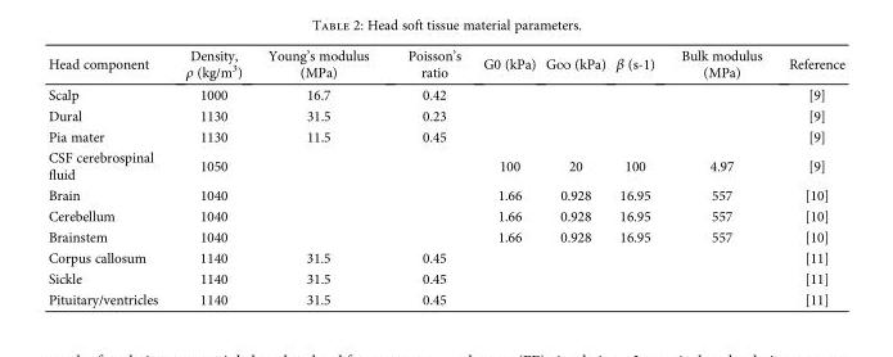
<table><thead><tr><td>Head component</td><td>Density, ρ (kg/m<sup>3</sup>)</td><td>Young’s modulus (MPa)</td><td>Poisson’s ratio</td><td>G0 (kPa)</td><td>G∞ (kPa)</td><td>β (s-1)</td><td>Bulk modulus (MPa)</td><td>Reference</td></tr></thead><tbody><tr><td>Scalp</td><td>1000</td><td>16.7</td><td>0.42</td><td></td><td></td><td></td><td></td><td>[9]</td></tr><tr><td>Dural</td><td>1130</td><td>31.5</td><td>0.23</td><td></td><td></td><td></td><td></td><td>[9]</td></tr><tr><td>Pia mater</td><td>1130</td><td>11.5</td><td>0.45</td><td></td><td></td><td></td><td></td><td>[9]</td></tr><tr><td>CSF cerebrospinal fluid</td><td>1050</td><td></td><td></td><td>100</td><td>20</td><td>100</td><td>4.97</td><td>[9]</td></tr><tr><td>Brain</td><td>1040</td><td></td><td></td><td>1.66</td><td>0.928</td><td>16.95</td><td>557</td><td>[10]</td></tr><tr><td>Cerebellum</td><td>1040</td><td></td><td></td><td>1.66</td><td>0.928</td><td>16.95</td><td>557</td><td>[10]</td></tr><tr><td>Brainstem</td><td>1040</td><td></td><td></td><td>1.66</td><td>0.928</td><td>16.95</td><td>557</td><td>[10]</td></tr><tr><td>Corpus callosum</td><td>1140</td><td>31.5</td><td>0.45</td><td></td><td></td><td></td><td></td><td>[11]</td></tr><tr><td>Sickle</td><td>1140</td><td>31.5</td><td>0.45</td><td></td><td></td><td></td><td></td><td>[11]</td></tr><tr><td>Pituitary/ventricles</td><td>1140</td><td>31.5</td><td>0.45</td><td></td><td></td><td></td><td></td><td>[11]</td></tr></tbody></table>